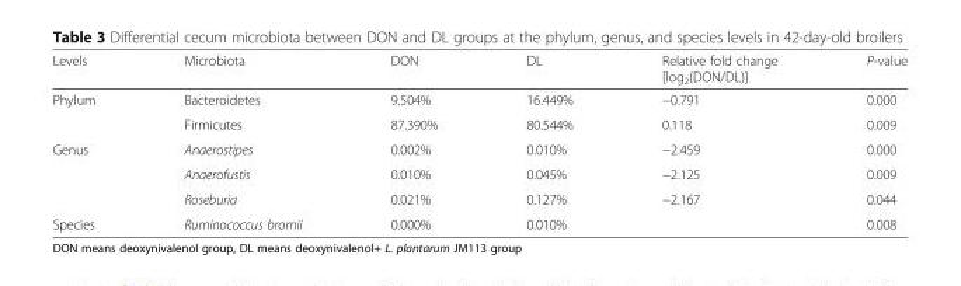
<table><thead><tr><td>Levels</td><td>Microbiota</td><td>DON</td><td>DL</td><td>Relative fold change [log<sub>2</sub>(DON/DL)]</td><td>P-value</td></tr></thead><tbody><tr><td rowspan="2">Phylum</td><td>Bacteroidetes</td><td>9.504%</td><td>16.449%</td><td>−0.791</td><td>0.000</td></tr><tr><td>Firmicutes</td><td>87.390%</td><td>80.544%</td><td>0.118</td><td>0.009</td></tr><tr><td rowspan="3">Genus</td><td>Anaerostipes</td><td>0.002%</td><td>0.010%</td><td>−2.459</td><td>0.000</td></tr><tr><td>Anaerofustis</td><td>0.010%</td><td>0.045%</td><td>−2.125</td><td>0.009</td></tr><tr><td>Roseburia</td><td>0.021%</td><td>0.127%</td><td>−2.167</td><td>0.044</td></tr><tr><td>Species</td><td>Ruminococcus bromii</td><td>0.000%</td><td>0.010%</td><td></td><td>0.008</td></tr></tbody></table>